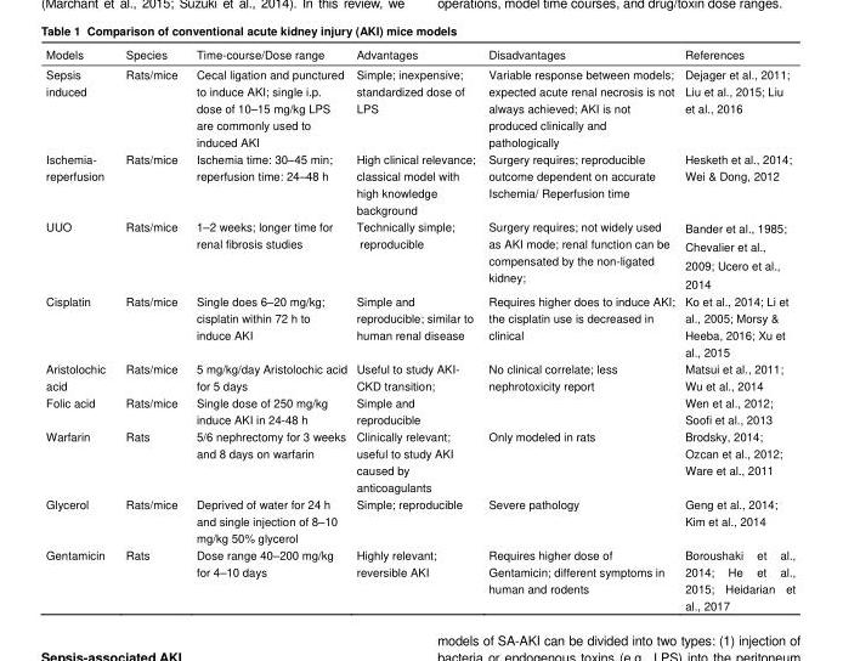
<table><thead><tr><td>Models</td><td>Species</td><td>Time-course/Dose range</td><td>Advantages</td><td>Disadvantages</td><td>References</td></tr></thead><tbody><tr><td>Sepsis induced</td><td>Rats/mice</td><td>Cecal ligation and punctured to induce AKI; single i.p. dose of 10–15 mg/kg LPS are commonly used to induced AKI</td><td>Simple; inexpensive; standardized dose of LPS</td><td>Variable response between models; expected acute renal necrosis is not always achieved; AKI is not produced clinically and pathologically</td><td>Dejager et al., 2011; Liu et al., 2015; Liu et al., 2016</td></tr><tr><td>Ischemia- reperfusion</td><td>Rats/mice</td><td>Ischemia time: 30–45 min; reperfusion time: 24–48 h</td><td>High clinical relevance; classical model with high knowledge background</td><td>Surgery requires; reproducible outcome dependent on accurate Ischemia/ Reperfusion time</td><td>Hesketh et al., 2014; Wei &amp; Dong, 2012</td></tr><tr><td>UUO</td><td>Rats/mice</td><td>1–2 weeks; longer time for renal fibrosis studies</td><td>Technically simple; reproducible</td><td>Surgery requires; not widely used as AKI mode; renal function can be compensated by the non-ligated kidney;</td><td>Bander et al., 1985; Chevalier et al., 2009; Ucero et al., 2014</td></tr><tr><td>Cisplatin</td><td>Rats/mice</td><td>Single does 6–20 mg/kg; cisplatin within 72 h to induce AKI</td><td>Simple and reproducible; similar to human renal disease</td><td>Requires higher does to induce AKI; the cisplatin use is decreased in clinical</td><td>Ko et al., 2014; Li et al., 2005; Morsy &amp; Heeba, 2016; Xu et al., 2015</td></tr><tr><td>Aristolochic acid</td><td>Rats/mice</td><td>5 mg/kg/day Aristolochic acid for 5 days</td><td>Useful to study AKI- CKD transition;</td><td rowspan="2">No clinical correlate; less nephrotoxicity report</td><td>Matsui et al., 2011; Wu et al., 2014</td></tr><tr><td>Folic acid</td><td>Rats/mice</td><td>Single dose of 250 mg/kg induce AKI in 24-48 h</td><td>Simple and reproducible</td><td>Wen et al., 2012; Soofi et al., 2013</td></tr><tr><td>Warfarin</td><td>Rats</td><td>5/6 nephrectomy for 3 weeks and 8 days on warfarin</td><td>Clinically relevant; useful to study AKI caused by anticoagulants</td><td>Only modeled in rats</td><td>Brodsky, 2014; Ozcan et al., 2012; Ware et al., 2011</td></tr><tr><td>Glycerol</td><td>Rats/mice</td><td>Deprived of water for 24 h and single injection of 8–10 mg/kg 50% glycerol</td><td>Simple; reproducible</td><td>Severe pathology</td><td>Geng et al., 2014; Kim et al., 2014</td></tr><tr><td>Gentamicin</td><td>Rats</td><td>Dose range 40–200 mg/kg for 4–10 days</td><td>Highly relevant; reversible AKI</td><td>Requires higher dose of Gentamicin; different symptoms in human and rodents</td><td>Boroushaki et al., 2014; He et al., 2015; Heidarian et al., 2017</td></tr></tbody></table>